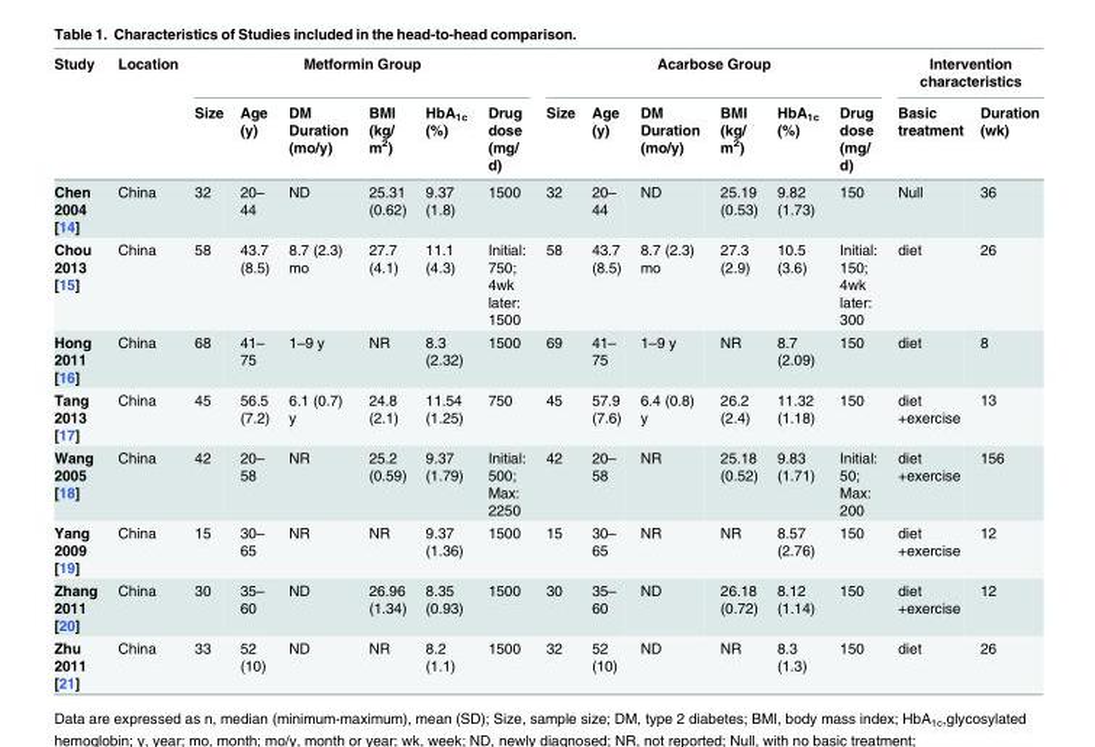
<table><thead><tr><td rowspan="2">Study</td><td rowspan="2">Location</td><td colspan="6">Metformin Group</td><td colspan="6">Acarbose Group</td><td colspan="2">Intervention characteristics</td></tr><tr><td>Size</td><td>Age (y)</td><td>DM Duration (mo/y)</td><td>BMI (kg/ m<sup>2</sup>)</td><td>HbA<sub>1c</sub> (%)</td><td>Drug dose (mg/ d)</td><td>Size</td><td>Age (y)</td><td>DM Duration (mo/y)</td><td>BMI (kg/ m<sup>2</sup>)</td><td>HbA<sub>1c</sub> (%)</td><td>Drug dose (mg/ d)</td><td>Basic treatment</td><td>Duration (wk)</td></tr></thead><tbody><tr><td>Chen 2004 [14]</td><td>China</td><td>32</td><td>20– 44</td><td>ND</td><td>25.31 (0.62)</td><td>9.37 (1.8)</td><td>1500</td><td>32</td><td>20– 44</td><td>ND</td><td>25.19 (0.53)</td><td>9.82 (1.73)</td><td>150</td><td>Null</td><td>36</td></tr><tr><td>Chou 2013 [15]</td><td>China</td><td>58</td><td>43.7 (8.5)</td><td>8.7 (2.3) mo</td><td>27.7 (4.1)</td><td>11.1 (4.3)</td><td>Initial: 750; 4wk later: 1500</td><td>58</td><td>43.7 (8.5)</td><td>8.7 (2.3) mo</td><td>27.3 (2.9)</td><td>10.5 (3.6)</td><td>Initial: 150; 4wk later: 300</td><td>diet</td><td>26</td></tr><tr><td>Hong 2011 [16]</td><td>China</td><td>68</td><td>41– 75</td><td>1–9 y</td><td>NR</td><td>8.3 (2.32)</td><td>1500</td><td>69</td><td>41– 75</td><td>1–9 y</td><td>NR</td><td>8.7 (2.09)</td><td>150</td><td>diet</td><td>8</td></tr><tr><td>Tang 2013 [17]</td><td>China</td><td>45</td><td>56.5 (7.2)</td><td>6.1 (0.7) y</td><td>24.8 (2.1)</td><td>11.54 (1.25)</td><td>750</td><td>45</td><td>57.9 (7.6)</td><td>6.4 (0.8) y</td><td>26.2 (2.4)</td><td>11.32 (1.18)</td><td>150</td><td>diet +exercise</td><td>13</td></tr><tr><td>Wang 2005 [18]</td><td>China</td><td>42</td><td>20– 58</td><td>NR</td><td>25.2 (0.59)</td><td>9.37 (1.79)</td><td>Initial: 500; Max: 2250</td><td>42</td><td>20– 58</td><td>NR</td><td>25.18 (0.52)</td><td>9.83 (1.71)</td><td>Initial: 50; Max: 200</td><td>diet +exercise</td><td>156</td></tr><tr><td>Yang 2009 [19]</td><td>China</td><td>15</td><td>30– 65</td><td>NR</td><td>NR</td><td>9.37 (1.36)</td><td>1500</td><td>15</td><td>30– 65</td><td>NR</td><td>NR</td><td>8.57 (2.76)</td><td>150</td><td>diet +exercise</td><td>12</td></tr><tr><td>Zhang 2011 [20]</td><td>China</td><td>30</td><td>35– 60</td><td>ND</td><td>26.96 (1.34)</td><td>8.35 (0.93)</td><td>1500</td><td>30</td><td>35– 60</td><td>ND</td><td>26.18 (0.72)</td><td>8.12 (1.14)</td><td>150</td><td>diet +exercise</td><td>12</td></tr><tr><td>Zhu 2011 [21]</td><td>China</td><td>33</td><td>52 (10)</td><td>ND</td><td>NR</td><td>8.2 (1.1)</td><td>1500</td><td>32</td><td>52 (10)</td><td>ND</td><td>NR</td><td>8.3 (1.3)</td><td>150</td><td>diet</td><td>26</td></tr></tbody></table>